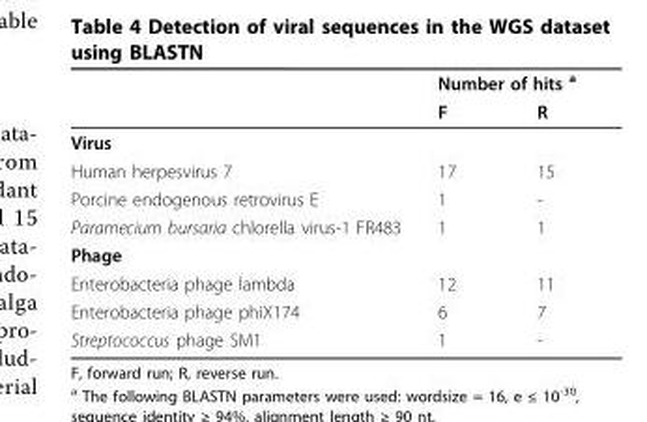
<table><thead><tr><td rowspan="2"></td><td colspan="2">Number of hits <sup>a</sup></td></tr><tr><td>F</td><td>R</td></tr></thead><tbody><tr><td colspan="3">Virus</td></tr><tr><td>Human herpesvirus 7</td><td>17</td><td>15</td></tr><tr><td>Porcine endogenous retrovirus E</td><td>1</td><td>-</td></tr><tr><td>Paramecium bursaria chlorella virus-1 FR483</td><td>1</td><td>1</td></tr><tr><td colspan="3">Phage</td></tr><tr><td>Enterobacteria phage lambda</td><td>12</td><td>11</td></tr><tr><td>Enterobacteria phage phiX174</td><td>6</td><td>7</td></tr><tr><td>Streptococcus phage SM1</td><td>1</td><td>-</td></tr></tbody></table>